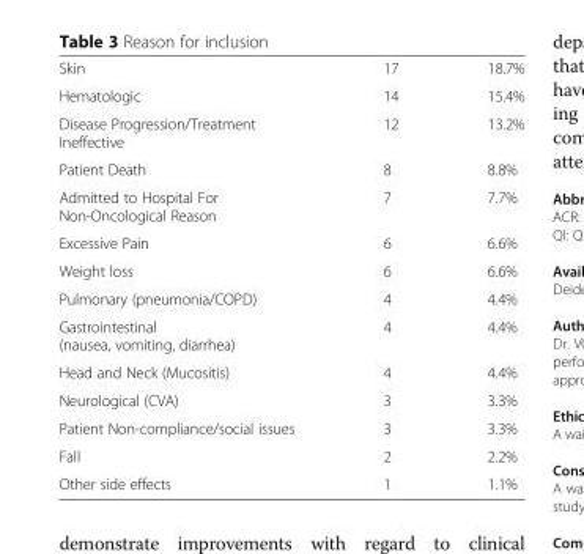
<table><tbody><tr><td>Skin</td><td>17</td><td>18.7%</td></tr><tr><td>Hematologic</td><td>14</td><td>15.4%</td></tr><tr><td>Disease Progression/Treatment Ineffective</td><td>12</td><td>13.2%</td></tr><tr><td>Patient Death</td><td>8</td><td>8.8%</td></tr><tr><td>Admitted to Hospital For Non-Oncological Reason</td><td>7</td><td>7.7%</td></tr><tr><td>Excessive Pain</td><td>6</td><td>6.6%</td></tr><tr><td>Weight loss</td><td>6</td><td>6.6%</td></tr><tr><td>Pulmonary (pneumonia/COPD)</td><td>4</td><td>4.4%</td></tr><tr><td>Gastrointestinal (nausea, vomiting, diarrhea)</td><td>4</td><td>4.4%</td></tr><tr><td>Head and Neck (Mucositis)</td><td>4</td><td>4.4%</td></tr><tr><td>Neurological (CVA)</td><td>3</td><td>3.3%</td></tr><tr><td>Patient Non-compliance/social issues</td><td>3</td><td>3.3%</td></tr><tr><td>Fall</td><td>2</td><td>2.2%</td></tr><tr><td>Other side effects</td><td>1</td><td>1.1%</td></tr></tbody></table>